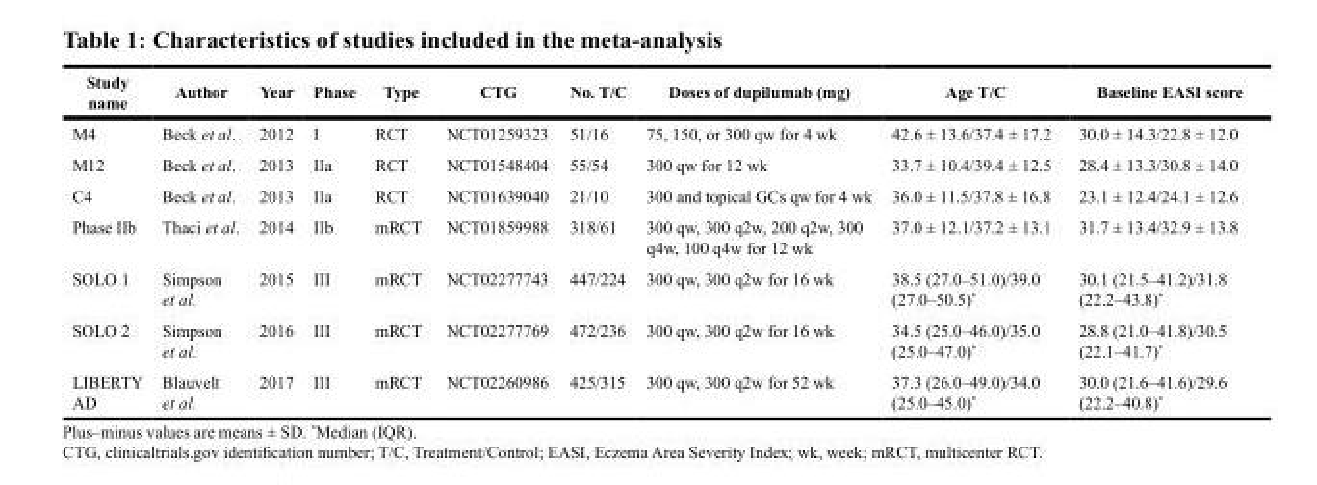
<table><thead><tr><td>Study name</td><td>Author</td><td>Year</td><td>Phase</td><td>Type</td><td>CTG</td><td>No. T/C</td><td>Doses of dupilumab (mg)</td><td>Age T/C</td><td>Baseline EASI score</td></tr></thead><tbody><tr><td>M4</td><td>Beck et al.</td><td>2012</td><td>I</td><td>RCT</td><td>NCT01259323</td><td>51/16</td><td>75, 150, or 300 qw for 4 wk</td><td>42.6 ± 13.6/37.4 ± 17.2</td><td>30.0 ± 14.3/22.8 ± 12.0</td></tr><tr><td>M12</td><td>Beck et al.</td><td>2013</td><td>IIa</td><td>RCT</td><td>NCT01548404</td><td>55/54</td><td>300 qw for 12 wk</td><td>33.7 ± 10.4/39.4 ± 12.5</td><td>28.4 ± 13.3/30.8 ± 14.0</td></tr><tr><td>C4</td><td>Beck et al.</td><td>2013</td><td>IIa</td><td>RCT</td><td>NCT01639040</td><td>21/10</td><td>300 and topical GCs qw for 4 wk</td><td>36.0 ± 11.5/37.8 ± 16.8</td><td>23.1 ± 12.4/24.1 ± 12.6</td></tr><tr><td>Phase IIb</td><td>Thaci et al.</td><td>2014</td><td>IIb</td><td>mRCT</td><td>NCT01859988</td><td>318/61</td><td>300 qw, 300 q2w, 200 q2w, 300 q4w, 100 q4w for 12 wk</td><td>37.0 ± 12.1/37.2 ± 13.1</td><td>31.7 ± 13.4/32.9 ± 13.8</td></tr><tr><td>SOLO 1</td><td>Simpson et al.</td><td>2015</td><td>III</td><td>mRCT</td><td>NCT02277743</td><td>447/224</td><td>300 qw, 300 q2w for 16 wk</td><td>38.5 (27.0–51.0)/39.0 (27.0–50.5)*</td><td>30.1 (21.5–41.2)/31.8 (22.2–43.8)*</td></tr><tr><td>SOLO 2</td><td>Simpson et al.</td><td>2016</td><td>III</td><td>mRCT</td><td>NCT02277769</td><td>472/236</td><td>300 qw, 300 q2w for 16 wk</td><td>34.5 (25.0–46.0)/35.0 (25.0–47.0)*</td><td>28.8 (21.0–41.8)/30.5 (22.1–41.7)*</td></tr><tr><td>LIBERTY AD</td><td>Blauvelt et al.</td><td>2017</td><td>III</td><td>mRCT</td><td>NCT02260986</td><td>425/315</td><td>300 qw, 300 q2w for 52 wk</td><td>37.3 (26.0–49.0)/34.0 (25.0–45.0)*</td><td>30.0 (21.6–41.6)/29.6 (22.2–40.8)*</td></tr></tbody></table>